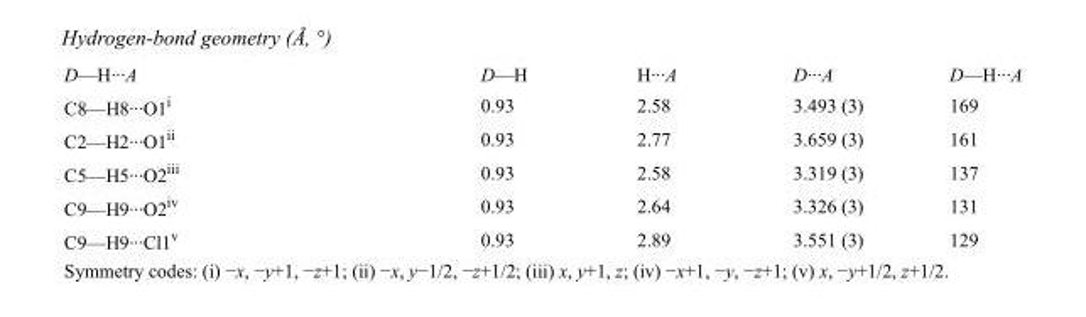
<table><tbody><tr><td>D—H···A</td><td>D—H</td><td>H···A</td><td>D···A</td><td>D—H···A</td></tr><tr><td>C8—H8···O1<sup>i</sup></td><td>0.93</td><td>2.58</td><td>3.493 (3)</td><td>169</td></tr><tr><td>C2—H2···O1<sup>ii</sup></td><td>0.93</td><td>2.77</td><td>3.659 (3)</td><td>161</td></tr><tr><td>C5—H5···O2<sup>iii</sup></td><td>0.93</td><td>2.58</td><td>3.319 (3)</td><td>137</td></tr><tr><td>C9—H9···O2<sup>iv</sup></td><td>0.93</td><td>2.64</td><td>3.326 (3)</td><td>131</td></tr><tr><td>C9—H9···Cl1<sup>v</sup></td><td>0.93</td><td>2.89</td><td>3.551 (3)</td><td>129</td></tr></tbody></table>